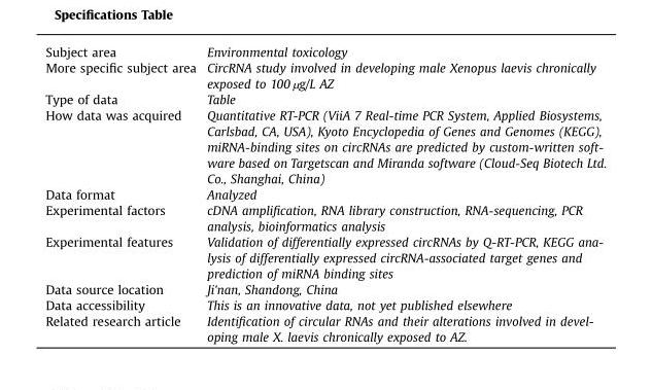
<table><tbody><tr><td>Subject area</td><td>Environmental toxicology</td></tr><tr><td>More specific subject area</td><td>CircRNA study involved in developing male Xenopus laevis chronically exposed to 100 µg/L AZ</td></tr><tr><td>Type of data</td><td>Table</td></tr><tr><td>How data was acquired</td><td>Quantitative RT-PCR (ViiA 7 Real-time PCR System, Applied Biosystems, Carlsbad, CA, USA), Kyoto Encyclopedia of Genes and Genomes (KEGG), miRNA-binding sites on circRNAs are predicted by custom-written soft- ware based on Targetscan and Miranda software (Cloud-Seq Biotech Ltd. Co., Shanghai, China)</td></tr><tr><td>Data format</td><td>Analyzed</td></tr><tr><td>Experimental factors</td><td>cDNA amplification, RNA library construction, RNA-sequencing, PCR analysis, bioinformatics analysis</td></tr><tr><td>Experimental features</td><td>Validation of differentially expressed circRNAs by Q-RT-PCR, KEGG ana- lysis of differentially expressed circRNA-associated target genes and prediction of miRNA binding sites</td></tr><tr><td>Data source location</td><td>Ji’nan, Shandong, China</td></tr><tr><td>Data accessibility</td><td>This is an innovative data, not yet published elsewhere</td></tr><tr><td>Related research article</td><td>Identification of circular RNAs and their alterations involved in devel- oping male X. laevis chronically exposed to AZ.</td></tr></tbody></table>